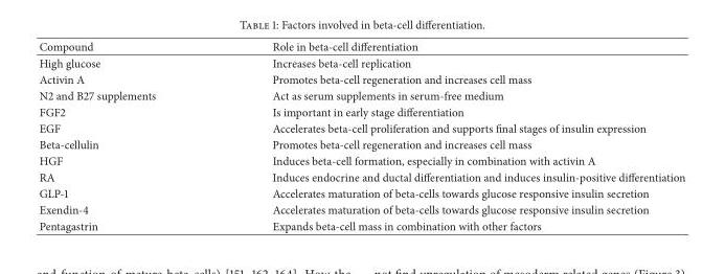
<table><thead><tr><td>Compound</td><td>Role in beta-cell differentiation</td></tr></thead><tbody><tr><td>High glucose</td><td>Increases beta-cell replication</td></tr><tr><td>Activin A</td><td>Promotes beta-cell regeneration and increases cell mass</td></tr><tr><td>N2 and B27 supplements</td><td>Act as serum supplements in serum-free medium</td></tr><tr><td>FGF2</td><td>Is important in early stage differentiation</td></tr><tr><td>EGF</td><td>Accelerates beta-cell proliferation and supports final stages of insulin expression</td></tr><tr><td>Beta-cellulin</td><td>Promotes beta-cell regeneration and increases cell mass</td></tr><tr><td>HGF</td><td>Induces beta-cell formation, especially in combination with activin A</td></tr><tr><td>RA</td><td>Induces endocrine and ductal differentiation and induces insulin-positive differentiation</td></tr><tr><td>GLP-1</td><td>Accelerates maturation of beta-cells towards glucose responsive insulin secretion</td></tr><tr><td>Exendin-4</td><td>Accelerates maturation of beta-cells towards glucose responsive insulin secretion</td></tr><tr><td>Pentagastrin</td><td>Expands beta-cell mass in combination with other factors</td></tr></tbody></table>